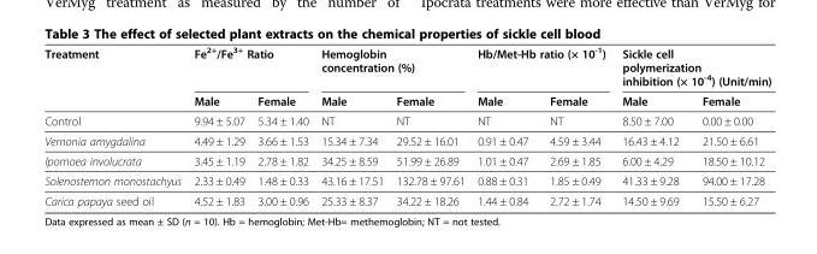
<table><thead><tr><td rowspan="2">Treatment</td><td colspan="2">Fe<sup>2+</sup>/Fe<sup>3+</sup> Ratio</td><td colspan="2">Hemoglobin concentration (%)</td><td colspan="2">Hb/Met-Hb ratio (× 10<sup>-1</sup>)</td><td colspan="2">Sickle cell polymerization inhibition (× 10<sup>-4</sup>) (Unit/min)</td></tr><tr><td>Male</td><td>Female</td><td>Male</td><td>Female</td><td>Male</td><td>Female</td><td>Male</td><td>Female</td></tr></thead><tbody><tr><td>Control</td><td>9.94 ± 5.07</td><td>5.34 ± 1.40</td><td>NT</td><td>NT</td><td>NT</td><td>NT</td><td>8.50 ± 7.00</td><td>0.00 ± 0.00</td></tr><tr><td>Vernonia amygdalina</td><td>4.49 ± 1.29</td><td>3.66 ± 1.53</td><td>15.34 ± 7.34</td><td>29.52 ± 16.01</td><td>0.91 ± 0.47</td><td>4.59 ± 3.44</td><td>16.43 ± 4.12</td><td>21.50 ± 6.61</td></tr><tr><td>Ipomoea involucrata</td><td>3.45 ± 1.19</td><td>2.78 ± 1.82</td><td>34.25 ± 8.59</td><td>51.99 ± 26.89</td><td>1.01 ± 0.47</td><td>2.69 ± 1.85</td><td>6.00 ± 4.29</td><td>18.50 ± 10.12</td></tr><tr><td>Solenostemon monostachyus</td><td>2.33 ± 0.49</td><td>1.48 ± 0.33</td><td>43.16 ± 17.51</td><td>132.78 ± 97.61</td><td>0.88 ± 0.31</td><td>1.85 ± 0.49</td><td>41.33 ± 9.28</td><td>94.00 ± 17.28</td></tr><tr><td>Carica papaya seed oil</td><td>4.52 ± 1.83</td><td>3.00 ± 0.96</td><td>25.33 ± 8.37</td><td>34.22 ± 18.26</td><td>1.44 ± 0.84</td><td>2.72 ± 1.74</td><td>14.50 ± 9.69</td><td>15.50 ± 6.27</td></tr></tbody></table>